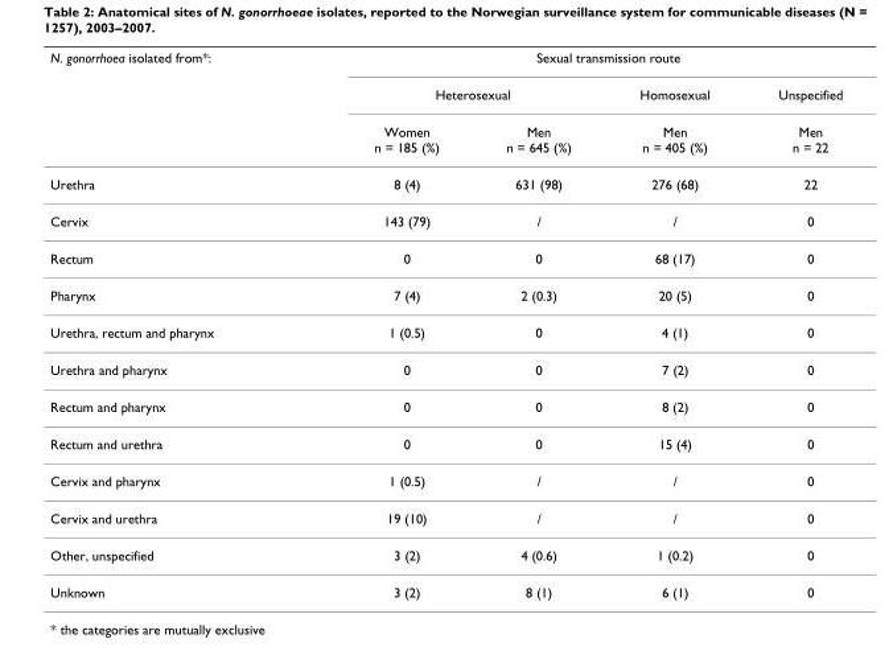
<table><thead><tr><td rowspan="3">N. gonorrhoea isolated from*:</td><td colspan="4">Sexual transmission route</td></tr><tr><td colspan="2">Heterosexual</td><td rowspan="2">Homosexual Men n = 405 (%)</td><td rowspan="2">Unspecified Men n = 22</td></tr><tr><td>Women n = 185 (%)</td><td>Men n = 645 (%)</td></tr></thead><tbody><tr><td>Urethra</td><td>8 (4)</td><td>631 (98)</td><td>276 (68)</td><td>22</td></tr><tr><td>Cervix</td><td>143 (79)</td><td>/</td><td>/</td><td>0</td></tr><tr><td>Rectum</td><td>0</td><td>0</td><td>68 (17)</td><td>0</td></tr><tr><td>Pharynx</td><td>7 (4)</td><td>2 (0.3)</td><td>20 (5)</td><td>0</td></tr><tr><td>Urethra, rectum and pharynx</td><td>1 (0.5)</td><td>0</td><td>4 (1)</td><td>0</td></tr><tr><td>Urethra and pharynx</td><td>0</td><td>0</td><td>7 (2)</td><td>0</td></tr><tr><td>Rectum and pharynx</td><td>0</td><td>0</td><td>8 (2)</td><td>0</td></tr><tr><td>Rectum and urethra</td><td>0</td><td>0</td><td>15 (4)</td><td>0</td></tr><tr><td>Cervix and pharynx</td><td>1 (0.5)</td><td>/</td><td>/</td><td>0</td></tr><tr><td>Cervix and urethra</td><td>19 (10)</td><td>/</td><td>/</td><td>0</td></tr><tr><td>Other, unspecified</td><td>3 (2)</td><td>4 (0.6)</td><td>1 (0.2)</td><td>0</td></tr><tr><td>Unknown</td><td>3 (2)</td><td>8 (1)</td><td>6 (1)</td><td>0</td></tr></tbody></table>